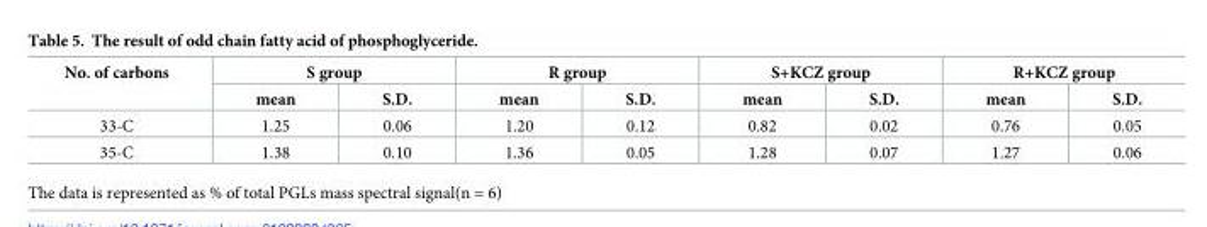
<table><thead><tr><td rowspan="2">No. of carbons</td><td colspan="2">S group</td><td colspan="2">R group</td><td colspan="2">S+KCZ group</td><td colspan="2">R+KCZ group</td></tr><tr><td>mean</td><td>S.D.</td><td>mean</td><td>S.D.</td><td>mean</td><td>S.D.</td><td>mean</td><td>S.D.</td></tr></thead><tbody><tr><td>33-C</td><td>1.25</td><td>0.06</td><td>1.20</td><td>0.12</td><td>0.82</td><td>0.02</td><td>0.76</td><td>0.05</td></tr><tr><td>35-C</td><td>1.38</td><td>0.10</td><td>1.36</td><td>0.05</td><td>1.28</td><td>0.07</td><td>1.27</td><td>0.06</td></tr></tbody></table>